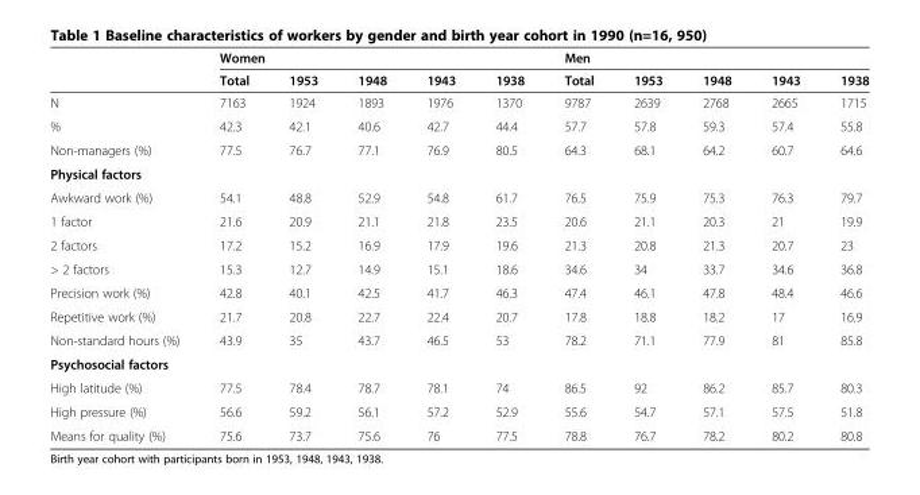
<table><thead><tr><td rowspan="2"></td><td colspan="5">Women</td><td colspan="5">Men</td></tr><tr><td>Total</td><td>1953</td><td>1948</td><td>1943</td><td>1938</td><td>Total</td><td>1953</td><td>1948</td><td>1943</td><td>1938</td></tr></thead><tbody><tr><td>N</td><td>7163</td><td>1924</td><td>1893</td><td>1976</td><td>1370</td><td>9787</td><td>2639</td><td>2768</td><td>2665</td><td>1715</td></tr><tr><td>%</td><td>42.3</td><td>42.1</td><td>40.6</td><td>42.7</td><td>44.4</td><td>57.7</td><td>57.8</td><td>59.3</td><td>57.4</td><td>55.8</td></tr><tr><td>Non-managers (%)</td><td>77.5</td><td>76.7</td><td>77.1</td><td>76.9</td><td>80.5</td><td>64.3</td><td>68.1</td><td>64.2</td><td>60.7</td><td>64.6</td></tr><tr><td colspan="11">Physical factors</td></tr><tr><td>Awkward work (%)</td><td>54.1</td><td>48.8</td><td>52.9</td><td>54.8</td><td>61.7</td><td>76.5</td><td>75.9</td><td>75.3</td><td>76.3</td><td>79.7</td></tr><tr><td>1 factor</td><td>21.6</td><td>20.9</td><td>21.1</td><td>21.8</td><td>23.5</td><td>20.6</td><td>21.1</td><td>20.3</td><td>21</td><td>19.9</td></tr><tr><td>2 factors</td><td>17.2</td><td>15.2</td><td>16.9</td><td>17.9</td><td>19.6</td><td>21.3</td><td>20.8</td><td>21.3</td><td>20.7</td><td>23</td></tr><tr><td>&gt; 2 factors</td><td>15.3</td><td>12.7</td><td>14.9</td><td>15.1</td><td>18.6</td><td>34.6</td><td>34</td><td>33.7</td><td>34.6</td><td>36.8</td></tr><tr><td>Precision work (%)</td><td>42.8</td><td>40.1</td><td>42.5</td><td>41.7</td><td>46.3</td><td>47.4</td><td>46.1</td><td>47.8</td><td>48.4</td><td>46.6</td></tr><tr><td>Repetitive work (%)</td><td>21.7</td><td>20.8</td><td>22.7</td><td>22.4</td><td>20.7</td><td>17.8</td><td>18.8</td><td>18.2</td><td>17</td><td>16.9</td></tr><tr><td>Non-standard hours (%)</td><td>43.9</td><td>35</td><td>43.7</td><td>46.5</td><td>53</td><td>78.2</td><td>71.1</td><td>77.9</td><td>81</td><td>85.8</td></tr><tr><td colspan="11">Psychosocial factors</td></tr><tr><td>High latitude (%)</td><td>77.5</td><td>78.4</td><td>78.7</td><td>78.1</td><td>74</td><td>86.5</td><td>92</td><td>86.2</td><td>85.7</td><td>80.3</td></tr><tr><td>High pressure (%)</td><td>56.6</td><td>59.2</td><td>56.1</td><td>57.2</td><td>52.9</td><td>55.6</td><td>54.7</td><td>57.1</td><td>57.5</td><td>51.8</td></tr><tr><td>Means for quality (%)</td><td>75.6</td><td>73.7</td><td>75.6</td><td>76</td><td>77.5</td><td>78.8</td><td>76.7</td><td>78.2</td><td>80.2</td><td>80.8</td></tr></tbody></table>